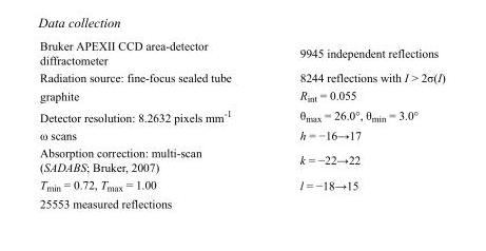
<table><tbody><tr><td>Bruker APEXII CCD area-detector diffractometer</td><td>9945 independent reflections</td></tr><tr><td>Radiation source: fine-focus sealed tube</td><td>8244 reflections with I &gt; 2σ(I)</td></tr><tr><td>graphite</td><td>R<sub>int</sub> = 0.055</td></tr><tr><td>Detector resolution: 8.2632 pixels mm<sup>-1</sup></td><td>θ<sub>max</sub> = 26.0°, θ<sub>min</sub> = 3.0°</td></tr><tr><td>ω scans</td><td>h = −16→17</td></tr><tr><td>Absorption correction: multi-scan (SADABS; Bruker, 2007)</td><td>k = −22→22</td></tr><tr><td>T<sub>min</sub> = 0.72, T<sub>max</sub> = 1.00</td><td>l = −18→15</td></tr><tr><td>25553 measured reflections</td><td></td></tr></tbody></table>